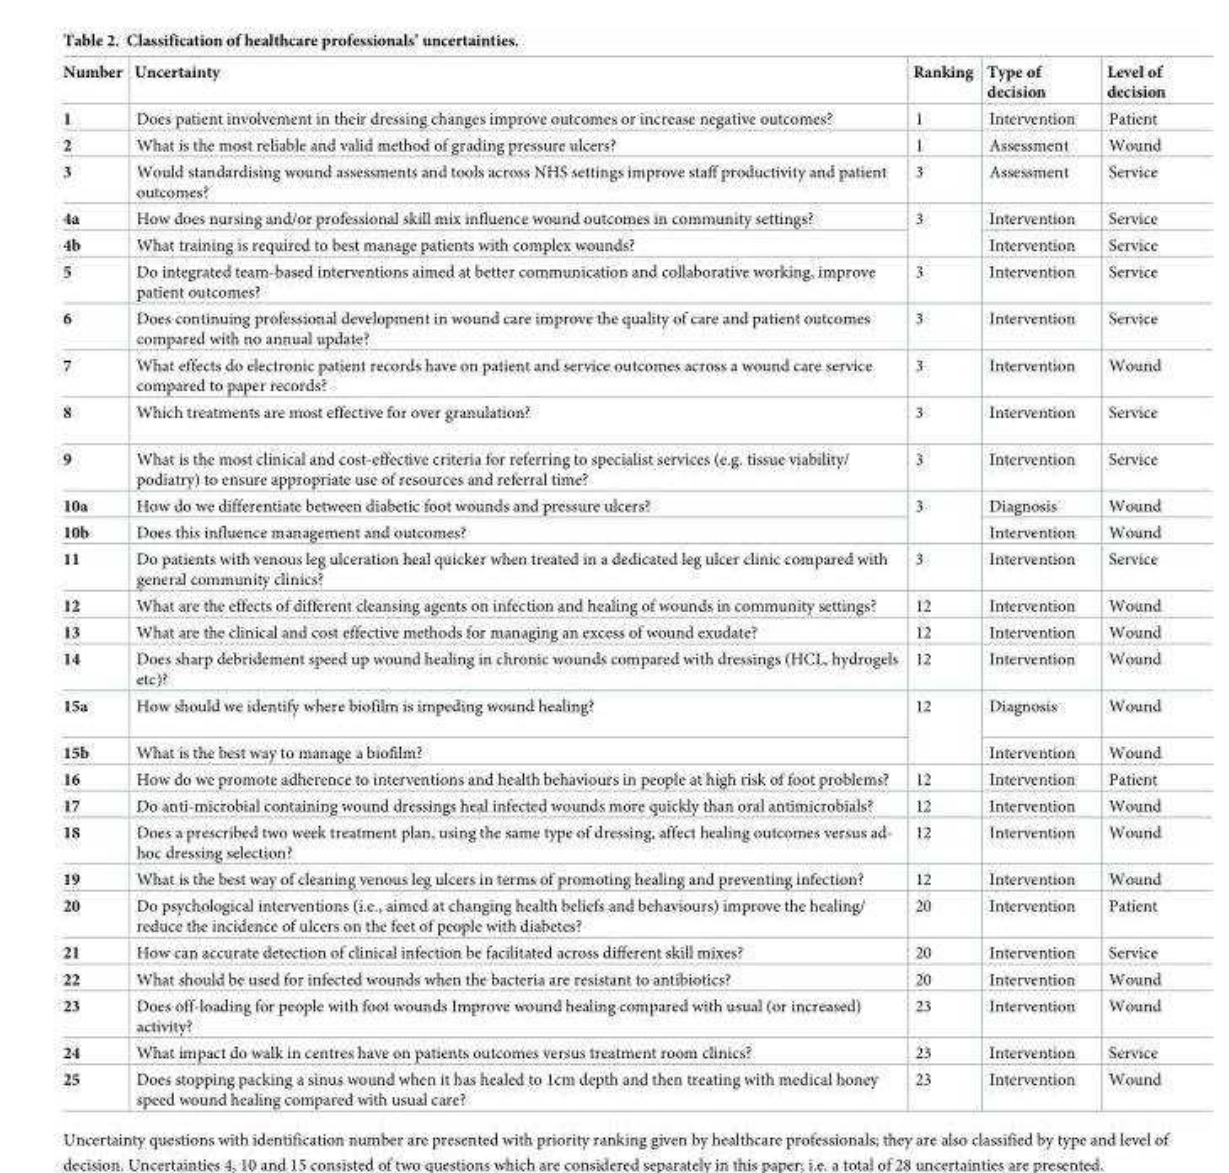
<table><thead><tr><td>Number</td><td>Uncertainty</td><td>Ranking</td><td>Type of decision</td><td>Level of decision</td></tr></thead><tbody><tr><td>1</td><td>Does patient involvement in their dressing changes improve outcomes or increase negative outcomes?</td><td>1</td><td>Intervention</td><td>Patient</td></tr><tr><td>2</td><td>What is the most reliable and valid method of grading pressure ulcers?</td><td>1</td><td>Assessment</td><td>Wound</td></tr><tr><td>3</td><td>Would standardising wound assessments and tools across NHS settings improve staff productivity and patient outcomes?</td><td>3</td><td>Assessment</td><td>Service</td></tr><tr><td>4a</td><td>How does nursing and/or professional skill mix influence wound outcomes in community settings?</td><td rowspan="2">3</td><td>Intervention</td><td>Service</td></tr><tr><td>4b</td><td>What training is required to best manage patients with complex wounds?</td><td>Intervention</td><td>Service</td></tr><tr><td>5</td><td>Do integrated team-based interventions aimed at better communication and collaborative working, improve patient outcomes?</td><td>3</td><td>Intervention</td><td>Service</td></tr><tr><td>6</td><td>Does continuing professional development in wound care improve the quality of care and patient outcomes compared with no annual update?</td><td>3</td><td>Intervention</td><td>Service</td></tr><tr><td>7</td><td>What effects do electronic patient records have on patient and service outcomes across a wound care service compared to paper records?</td><td>3</td><td>Intervention</td><td>Wound</td></tr><tr><td>8</td><td>Which treatments are most effective for over granulation?</td><td>3</td><td>Intervention</td><td>Service</td></tr><tr><td>9</td><td>What is the most clinical and cost-effective criteria for referring to specialist services (e.g. tissue viability/ podiatry) to ensure appropriate use of resources and referral time?</td><td>3</td><td>Intervention</td><td>Service</td></tr><tr><td>10a</td><td>How do we differentiate between diabetic foot wounds and pressure ulcers?</td><td rowspan="2">3</td><td>Diagnosis</td><td>Wound</td></tr><tr><td>10b</td><td>Does this influence management and outcomes?</td><td>Intervention</td><td>Wound</td></tr><tr><td>11</td><td>Do patients with venous leg ulceration heal quicker when treated in a dedicated leg ulcer clinic compared with general community clinics?</td><td>3</td><td>Intervention</td><td>Service</td></tr><tr><td>12</td><td>What are the effects of different cleansing agents on infection and healing of wounds in community settings?</td><td>12</td><td>Intervention</td><td>Wound</td></tr><tr><td>13</td><td>What are the clinical and cost effective methods for managing an excess of wound exudate?</td><td>12</td><td>Intervention</td><td>Wound</td></tr><tr><td>14</td><td>Does sharp debridement speed up wound healing in chronic wounds compared with dressings (HCL, hydrogels etc)?</td><td>12</td><td>Intervention</td><td>Wound</td></tr><tr><td>15a</td><td>How should we identify where biofilm is impeding wound healing?</td><td rowspan="2">12</td><td>Diagnosis</td><td>Wound</td></tr><tr><td>15b</td><td>What is the best way to manage a biofilm?</td><td>Intervention</td><td>Wound</td></tr><tr><td>16</td><td>How do we promote adherence to interventions and health behaviours in people at high risk of foot problems?</td><td>12</td><td>Intervention</td><td>Patient</td></tr><tr><td>17</td><td>Do anti-microbial containing wound dressings heal infected wounds more quickly than oral antimicrobials?</td><td>12</td><td>Intervention</td><td>Wound</td></tr><tr><td>18</td><td>Does a prescribed two week treatment plan, using the same type of dressing, affect healing outcomes versus ad- hoc dressing selection?</td><td>12</td><td>Intervention</td><td>Wound</td></tr><tr><td>19</td><td>What is the best way of cleaning venous leg ulcers in terms of promoting healing and preventing infection?</td><td>12</td><td>Intervention</td><td>Wound</td></tr><tr><td>20</td><td>Do psychological interventions (i.e., aimed at changing health beliefs and behaviours) improve the healing/ reduce the incidence of ulcers on the feet of people with diabetes?</td><td>20</td><td>Intervention</td><td>Patient</td></tr><tr><td>21</td><td>How can accurate detection of clinical infection be facilitated across different skill mixes?</td><td>20</td><td>Intervention</td><td>Service</td></tr><tr><td>22</td><td>What should be used for infected wounds when the bacteria are resistant to antibiotics?</td><td>20</td><td>Intervention</td><td>Wound</td></tr><tr><td>23</td><td>Does off-loading for people with foot wounds Improve wound healing compared with usual (or increased) activity?</td><td>23</td><td>Intervention</td><td>Wound</td></tr><tr><td>24</td><td>What impact do walk in centres have on patients outcomes versus treatment room clinics?</td><td>23</td><td>Intervention</td><td>Service</td></tr><tr><td>25</td><td>Does stopping packing a sinus wound when it has healed to 1cm depth and then treating with medical honey speed wound healing compared with usual care?</td><td>23</td><td>Intervention</td><td>Wound</td></tr></tbody></table>